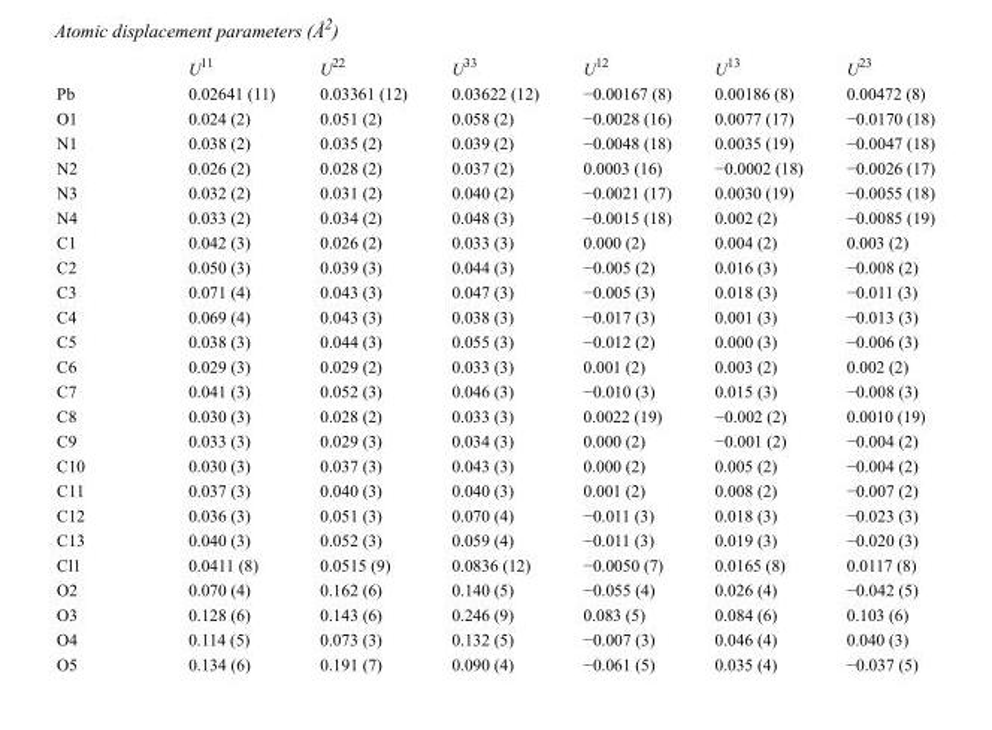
<table><thead><tr><td></td><td>U<sup>11</sup></td><td>U<sup>22</sup></td><td>U<sup>33</sup></td><td>U<sup>12</sup></td><td>U<sup>13</sup></td><td>U<sup>23</sup></td></tr></thead><tbody><tr><td>Pb</td><td>0.02641 (11)</td><td>0.03361 (12)</td><td>0.03622 (12)</td><td>−0.00167 (8)</td><td>0.00186 (8)</td><td>0.00472 (8)</td></tr><tr><td>O1</td><td>0.024 (2)</td><td>0.051 (2)</td><td>0.058 (2)</td><td>−0.0028 (16)</td><td>0.0077 (17)</td><td>−0.0170 (18)</td></tr><tr><td>N1</td><td>0.038 (2)</td><td>0.035 (2)</td><td>0.039 (2)</td><td>−0.0048 (18)</td><td>0.0035 (19)</td><td>−0.0047 (18)</td></tr><tr><td>N2</td><td>0.026 (2)</td><td>0.028 (2)</td><td>0.037 (2)</td><td>0.0003 (16)</td><td>−0.0002 (18)</td><td>−0.0026 (17)</td></tr><tr><td>N3</td><td>0.032 (2)</td><td>0.031 (2)</td><td>0.040 (2)</td><td>−0.0021 (17)</td><td>0.0030 (19)</td><td>−0.0055 (18)</td></tr><tr><td>N4</td><td>0.033 (2)</td><td>0.034 (2)</td><td>0.048 (3)</td><td>−0.0015 (18)</td><td>0.002 (2)</td><td>−0.0085 (19)</td></tr><tr><td>C1</td><td>0.042 (3)</td><td>0.026 (2)</td><td>0.033 (3)</td><td>0.000 (2)</td><td>0.004 (2)</td><td>0.003 (2)</td></tr><tr><td>C2</td><td>0.050 (3)</td><td>0.039 (3)</td><td>0.044 (3)</td><td>−0.005 (2)</td><td>0.016 (3)</td><td>−0.008 (2)</td></tr><tr><td>C3</td><td>0.071 (4)</td><td>0.043 (3)</td><td>0.047 (3)</td><td>−0.005 (3)</td><td>0.018 (3)</td><td>−0.011 (3)</td></tr><tr><td>C4</td><td>0.069 (4)</td><td>0.043 (3)</td><td>0.038 (3)</td><td>−0.017 (3)</td><td>0.001 (3)</td><td>−0.013 (3)</td></tr><tr><td>C5</td><td>0.038 (3)</td><td>0.044 (3)</td><td>0.055 (3)</td><td>−0.012 (2)</td><td>0.000 (3)</td><td>−0.006 (3)</td></tr><tr><td>C6</td><td>0.029 (3)</td><td>0.029 (2)</td><td>0.033 (3)</td><td>0.001 (2)</td><td>0.003 (2)</td><td>0.002 (2)</td></tr><tr><td>C7</td><td>0.041 (3)</td><td>0.052 (3)</td><td>0.046 (3)</td><td>−0.010 (3)</td><td>0.015 (3)</td><td>−0.008 (3)</td></tr><tr><td>C8</td><td>0.030 (3)</td><td>0.028 (2)</td><td>0.033 (3)</td><td>0.0022 (19)</td><td>−0.002 (2)</td><td>0.0010 (19)</td></tr><tr><td>C9</td><td>0.033 (3)</td><td>0.029 (3)</td><td>0.034 (3)</td><td>0.000 (2)</td><td>−0.001 (2)</td><td>−0.004 (2)</td></tr><tr><td>C10</td><td>0.030 (3)</td><td>0.037 (3)</td><td>0.043 (3)</td><td>0.000 (2)</td><td>0.005 (2)</td><td>−0.004 (2)</td></tr><tr><td>C11</td><td>0.037 (3)</td><td>0.040 (3)</td><td>0.040 (3)</td><td>0.001 (2)</td><td>0.008 (2)</td><td>−0.007 (2)</td></tr><tr><td>C12</td><td>0.036 (3)</td><td>0.051 (3)</td><td>0.070 (4)</td><td>−0.011 (3)</td><td>0.018 (3)</td><td>−0.023 (3)</td></tr><tr><td>C13</td><td>0.040 (3)</td><td>0.052 (3)</td><td>0.059 (4)</td><td>−0.011 (3)</td><td>0.019 (3)</td><td>−0.020 (3)</td></tr><tr><td>Cl1</td><td>0.0411 (8)</td><td>0.0515 (9)</td><td>0.0836 (12)</td><td>−0.0050 (7)</td><td>0.0165 (8)</td><td>0.0117 (8)</td></tr><tr><td>O2</td><td>0.070 (4)</td><td>0.162 (6)</td><td>0.140 (5)</td><td>−0.055 (4)</td><td>0.026 (4)</td><td>−0.042 (5)</td></tr><tr><td>O3</td><td>0.128 (6)</td><td>0.143 (6)</td><td>0.246 (9)</td><td>0.083 (5)</td><td>0.084 (6)</td><td>0.103 (6)</td></tr><tr><td>O4</td><td>0.114 (5)</td><td>0.073 (3)</td><td>0.132 (5)</td><td>−0.007 (3)</td><td>0.046 (4)</td><td>0.040 (3)</td></tr><tr><td>O5</td><td>0.134 (6)</td><td>0.191 (7)</td><td>0.090 (4)</td><td>−0.061 (5)</td><td>0.035 (4)</td><td>−0.037 (5)</td></tr></tbody></table>